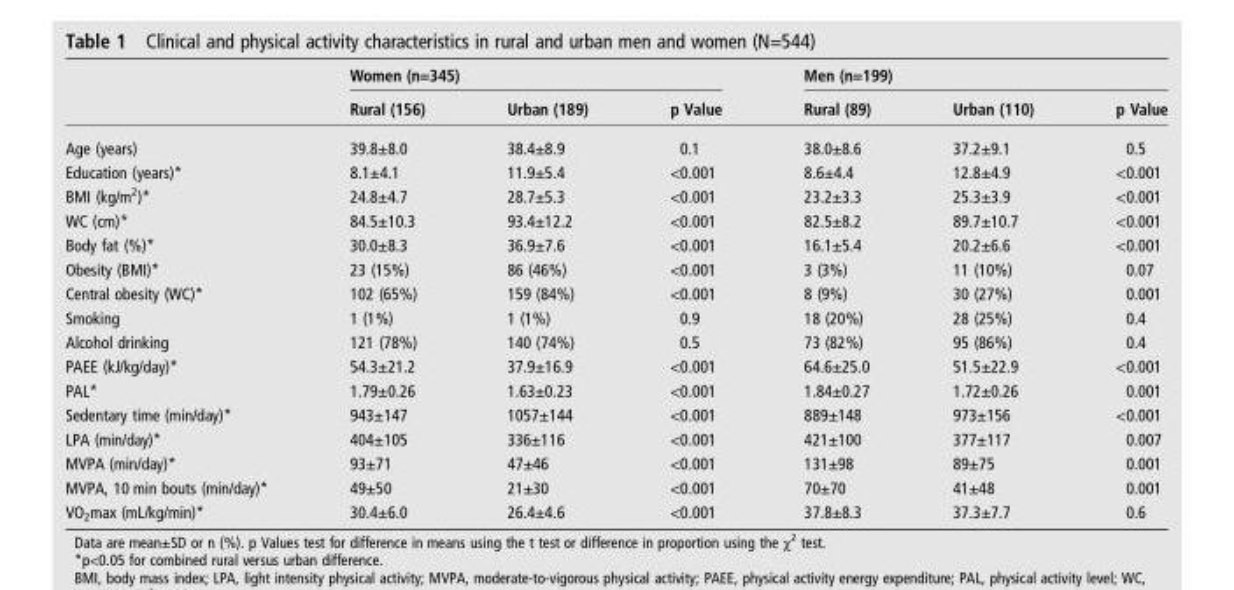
<table><thead><tr><td rowspan="2"></td><td colspan="3">Women (n=345)</td><td colspan="3">Men (n=199)</td></tr><tr><td>Rural (156)</td><td>Urban (189)</td><td>p Value</td><td>Rural (89)</td><td>Urban (110)</td><td>p Value</td></tr></thead><tbody><tr><td>Age (years)</td><td>39.8±8.0</td><td>38.4±8.9</td><td>0.1</td><td>38.0±8.6</td><td>37.2±9.1</td><td>0.5</td></tr><tr><td>Education (years)*</td><td>8.1±4.1</td><td>11.9±5.4</td><td>&lt;0.001</td><td>8.6±4.4</td><td>12.8±4.9</td><td>&lt;0.001</td></tr><tr><td>BMI (kg/m<sup>2</sup>)*</td><td>24.8±4.7</td><td>28.7±5.3</td><td>&lt;0.001</td><td>23.2±3.3</td><td>25.3±3.9</td><td>&lt;0.001</td></tr><tr><td>WC (cm)*</td><td>84.5±10.3</td><td>93.4±12.2</td><td>&lt;0.001</td><td>82.5±8.2</td><td>89.7±10.7</td><td>&lt;0.001</td></tr><tr><td>Body fat (%)*</td><td>30.0±8.3</td><td>36.9±7.6</td><td>&lt;0.001</td><td>16.1±5.4</td><td>20.2±6.6</td><td>&lt;0.001</td></tr><tr><td>Obesity (BMI)*</td><td>23 (15%)</td><td>86 (46%)</td><td>&lt;0.001</td><td>3 (3%)</td><td>11 (10%)</td><td>0.07</td></tr><tr><td>Central obesity (WC)*</td><td>102 (65%)</td><td>159 (84%)</td><td>&lt;0.001</td><td>8 (9%)</td><td>30 (27%)</td><td>0.001</td></tr><tr><td>Smoking</td><td>1 (1%)</td><td>1 (1%)</td><td>0.9</td><td>18 (20%)</td><td>28 (25%)</td><td>0.4</td></tr><tr><td>Alcohol drinking</td><td>121 (78%)</td><td>140 (74%)</td><td>0.5</td><td>73 (82%)</td><td>95 (86%)</td><td>0.4</td></tr><tr><td>PAEE (kJ/kg/day)*</td><td>54.3±21.2</td><td>37.9±16.9</td><td>&lt;0.001</td><td>64.6±25.0</td><td>51.5±22.9</td><td>&lt;0.001</td></tr><tr><td>PAL*</td><td>1.79±0.26</td><td>1.63±0.23</td><td>&lt;0.001</td><td>1.84±0.27</td><td>1.72±0.26</td><td>0.001</td></tr><tr><td>Sedentary time (min/day)*</td><td>943±147</td><td>1057±144</td><td>&lt;0.001</td><td>889±148</td><td>973±156</td><td>&lt;0.001</td></tr><tr><td>LPA (min/day)*</td><td>404±105</td><td>336±116</td><td>&lt;0.001</td><td>421±100</td><td>377±117</td><td>0.007</td></tr><tr><td>MVPA (min/day)*</td><td>93±71</td><td>47±46</td><td>&lt;0.001</td><td>131±98</td><td>89±75</td><td>0.001</td></tr><tr><td>MVPA, 10 min bouts (min/day)*</td><td>49±50</td><td>21±30</td><td>&lt;0.001</td><td>70±70</td><td>41±48</td><td>0.001</td></tr><tr><td>VO<sub>2</sub>max (mL/kg/min)*</td><td>30.4±6.0</td><td>26.4±4.6</td><td>&lt;0.001</td><td>37.8±8.3</td><td>37.3±7.7</td><td>0.6</td></tr></tbody></table>